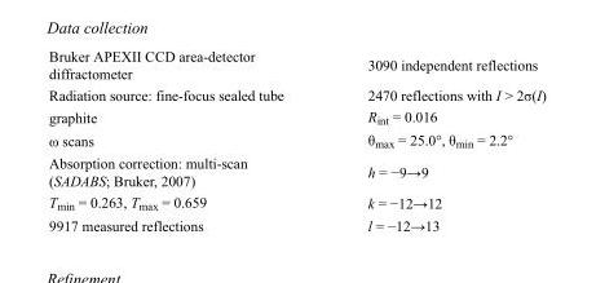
<table><tbody><tr><td>Bruker APEXII CCD area-detector diffractometer</td><td>3090 independent reflections</td></tr><tr><td>Radiation source: fine-focus sealed tube</td><td>2470 reflections with I &gt; 2σ(I)</td></tr><tr><td>graphite</td><td>R<sub>int</sub> = 0.016</td></tr><tr><td>ω scans</td><td>θ<sub>max</sub> = 25.0°, θ<sub>min</sub> = 2.2°</td></tr><tr><td>Absorption correction: multi-scan (SADABS; Bruker, 2007)</td><td>h = −9→9</td></tr><tr><td>T<sub>min</sub> = 0.263, T<sub>max</sub> = 0.659</td><td>k = −12→12</td></tr><tr><td>9917 measured reflections</td><td>l = −12→13</td></tr></tbody></table>